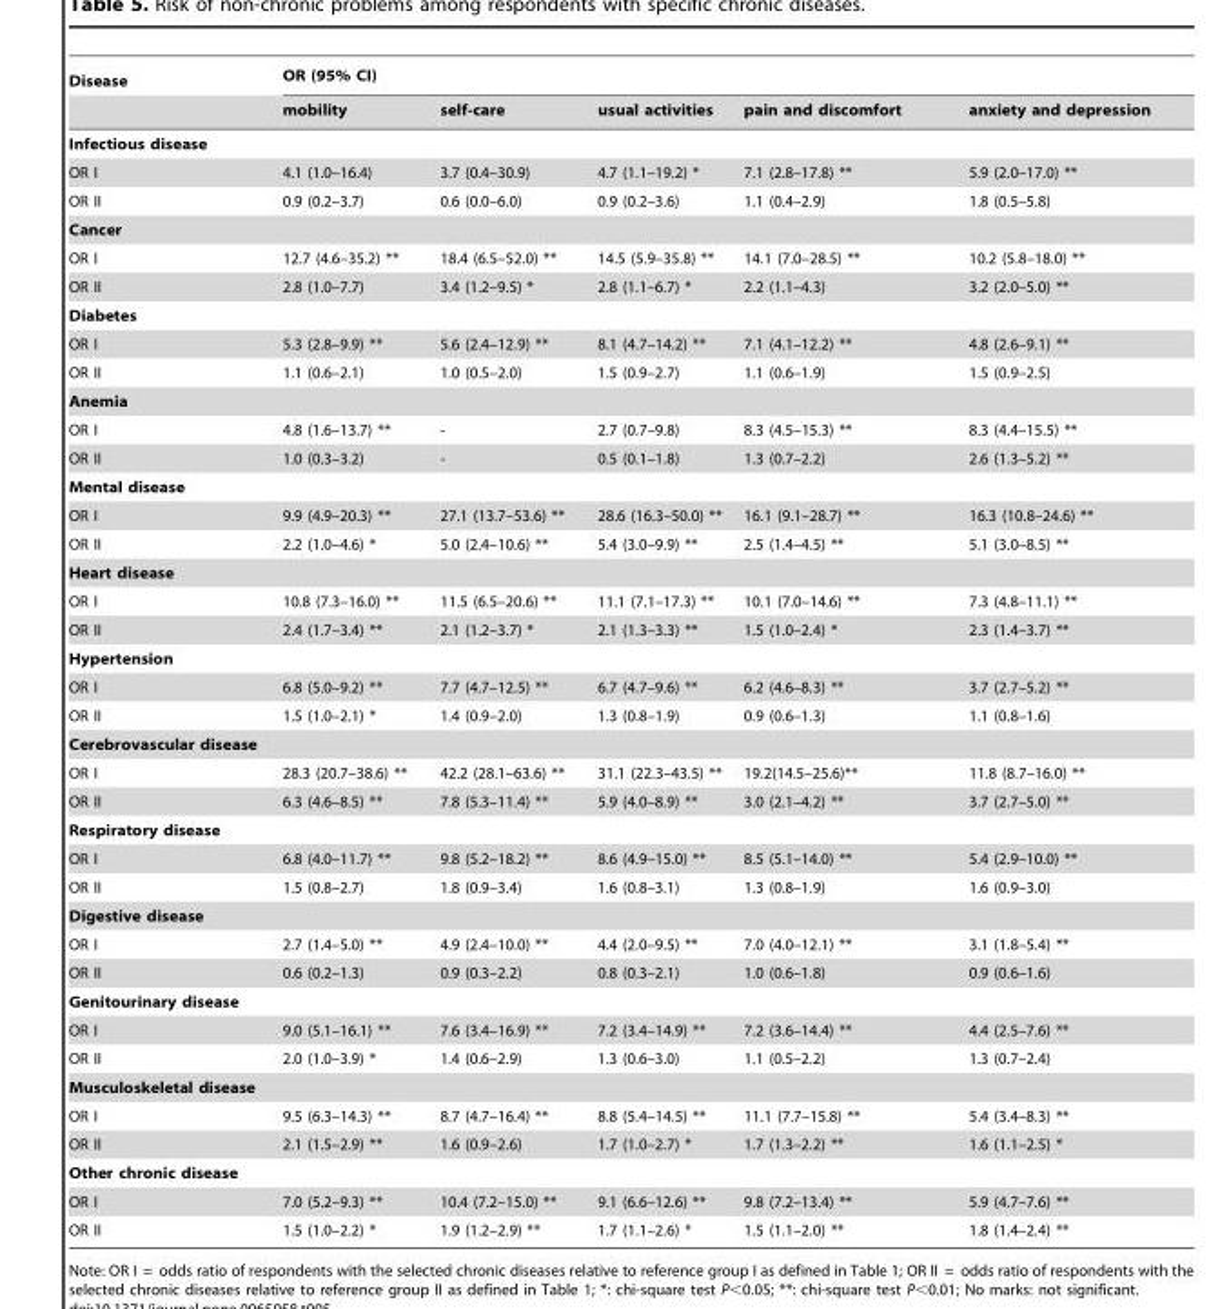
<table><thead><tr><td rowspan="2">Disease</td><td colspan="5">OR (95% CI)</td></tr><tr><td>mobility</td><td>self-care</td><td>usual activities</td><td>pain and discomfort</td><td>anxiety and depression</td></tr></thead><tbody><tr><td colspan="6">Infectious disease</td></tr><tr><td>OR I</td><td>4.1 (1.0–16.4)</td><td>3.7 (0.4–30.9)</td><td>4.7 (1.1–19.2) *</td><td>7.1 (2.8–17.8) **</td><td>5.9 (2.0–17.0) **</td></tr><tr><td>OR II</td><td>0.9 (0.2–3.7)</td><td>0.6 (0.0–6.0)</td><td>0.9 (0.2–3.6)</td><td>1.1 (0.4–2.9)</td><td>1.8 (0.5–5.8)</td></tr><tr><td colspan="6">Cancer</td></tr><tr><td>OR I</td><td>12.7 (4.6–35.2) **</td><td>18.4 (6.5–52.0) **</td><td>14.5 (5.9–35.8) **</td><td>14.1 (7.0–28.5) **</td><td>10.2 (5.8–18.0) **</td></tr><tr><td>OR II</td><td>2.8 (1.0–7.7)</td><td>3.4 (1.2–9.5) *</td><td>2.8 (1.1–6.7) *</td><td>2.2 (1.1–4.3)</td><td>3.2 (2.0–5.0) **</td></tr><tr><td colspan="6">Diabetes</td></tr><tr><td>OR I</td><td>5.3 (2.8–9.9) **</td><td>5.6 (2.4–12.9) **</td><td>8.1 (4.7–14.2) **</td><td>7.1 (4.1–12.2) **</td><td>4.8 (2.6–9.1) **</td></tr><tr><td>OR II</td><td>1.1 (0.6–2.1)</td><td>1.0 (0.5–2.0)</td><td>1.5 (0.9–2.7)</td><td>1.1 (0.6–1.9)</td><td>1.5 (0.9–2.5)</td></tr><tr><td colspan="6">Anemia</td></tr><tr><td>OR I</td><td>4.8 (1.6–13.7) **</td><td>-</td><td>2.7 (0.7–9.8)</td><td>8.3 (4.5–15.3) **</td><td>8.3 (4.4–15.5) **</td></tr><tr><td>OR II</td><td>1.0 (0.3–3.2)</td><td>-</td><td>0.5 (0.1–1.8)</td><td>1.3 (0.7–2.2)</td><td>2.6 (1.3–5.2) **</td></tr><tr><td colspan="6">Mental disease</td></tr><tr><td>OR I</td><td>9.9 (4.9–20.3) **</td><td>27.1 (13.7–53.6) **</td><td>28.6 (16.3–50.0) **</td><td>16.1 (9.1–28.7) **</td><td>16.3 (10.8–24.6) **</td></tr><tr><td>OR II</td><td>2.2 (1.0–4.6) *</td><td>5.0 (2.4–10.6) **</td><td>5.4 (3.0–9.9) **</td><td>2.5 (1.4–4.5) **</td><td>5.1 (3.0–8.5) **</td></tr><tr><td colspan="6">Heart disease</td></tr><tr><td>OR I</td><td>10.8 (7.3–16.0) **</td><td>11.5 (6.5–20.6) **</td><td>11.1 (7.1–17.3) **</td><td>10.1 (7.0–14.6) **</td><td>7.3 (4.8–11.1) **</td></tr><tr><td>OR II</td><td>2.4 (1.7–3.4) **</td><td>2.1 (1.2–3.7) *</td><td>2.1 (1.3–3.3) **</td><td>1.5 (1.0–2.4) *</td><td>2.3 (1.4–3.7) **</td></tr><tr><td colspan="6">Hypertension</td></tr><tr><td>OR I</td><td>6.8 (5.0–9.2) **</td><td>7.7 (4.7–12.5) **</td><td>6.7 (4.7–9.6) **</td><td>6.2 (4.6–8.3) **</td><td>3.7 (2.7–5.2) **</td></tr><tr><td>OR II</td><td>1.5 (1.0–2.1) *</td><td>1.4 (0.9–2.0)</td><td>1.3 (0.8–1.9)</td><td>0.9 (0.6–1.3)</td><td>1.1 (0.8–1.6)</td></tr><tr><td colspan="6">Cerebrovascular disease</td></tr><tr><td>OR I</td><td>28.3 (20.7–38.6) **</td><td>42.2 (28.1–63.6) **</td><td>31.1 (22.3–43.5) **</td><td>19.2(14.5–25.6)**</td><td>11.8 (8.7–16.0) **</td></tr><tr><td>OR II</td><td>6.3 (4.6–8.5) **</td><td>7.8 (5.3–11.4) **</td><td>5.9 (4.0–8.9) **</td><td>3.0 (2.1–4.2) **</td><td>3.7 (2.7–5.0) **</td></tr><tr><td colspan="6">Respiratory disease</td></tr><tr><td>OR I</td><td>6.8 (4.0–11.7) **</td><td>9.8 (5.2–18.2) **</td><td>8.6 (4.9–15.0) **</td><td>8.5 (5.1–14.0) **</td><td>5.4 (2.9–10.0) **</td></tr><tr><td>OR II</td><td>1.5 (0.8–2.7)</td><td>1.8 (0.9–3.4)</td><td>1.6 (0.8–3.1)</td><td>1.3 (0.8–1.9)</td><td>1.6 (0.9–3.0)</td></tr><tr><td colspan="6">Digestive disease</td></tr><tr><td>OR I</td><td>2.7 (1.4–5.0) **</td><td>4.9 (2.4–10.0) **</td><td>4.4 (2.0–9.5) **</td><td>7.0 (4.0–12.1) **</td><td>3.1 (1.8–5.4) **</td></tr><tr><td>OR II</td><td>0.6 (0.2–1.3)</td><td>0.9 (0.3–2.2)</td><td>0.8 (0.3–2.1)</td><td>1.0 (0.6–1.8)</td><td>0.9 (0.6–1.6)</td></tr><tr><td colspan="6">Genitourinary disease</td></tr><tr><td>OR I</td><td>9.0 (5.1–16.1) **</td><td>7.6 (3.4–16.9) **</td><td>7.2 (3.4–14.9) **</td><td>7.2 (3.6–14.4) **</td><td>4.4 (2.5–7.6) **</td></tr><tr><td>OR II</td><td>2.0 (1.0–3.9) *</td><td>1.4 (0.6–2.9)</td><td>1.3 (0.6–3.0)</td><td>1.1 (0.5–2.2)</td><td>1.3 (0.7–2.4)</td></tr><tr><td colspan="6">Musculoskeletal disease</td></tr><tr><td>OR I</td><td>9.5 (6.3–14.3) **</td><td>8.7 (4.7–16.4) **</td><td>8.8 (5.4–14.5) **</td><td>11.1 (7.7–15.8) **</td><td>5.4 (3.4–8.3) **</td></tr><tr><td>OR II</td><td>2.1 (1.5–2.9) **</td><td>1.6 (0.9–2.6)</td><td>1.7 (1.0–2.7) *</td><td>1.7 (1.3–2.2) **</td><td>1.6 (1.1–2.5) *</td></tr><tr><td colspan="6">Other chronic disease</td></tr><tr><td>OR I</td><td>7.0 (5.2–9.3) **</td><td>10.4 (7.2–15.0) **</td><td>9.1 (6.6–12.6) **</td><td>9.8 (7.2–13.4) **</td><td>5.9 (4.7–7.6) **</td></tr><tr><td>OR II</td><td>1.5 (1.0–2.2) *</td><td>1.9 (1.2–2.9) **</td><td>1.7 (1.1–2.6) *</td><td>1.5 (1.1–2.0) **</td><td>1.8 (1.4–2.4) **</td></tr></tbody></table>